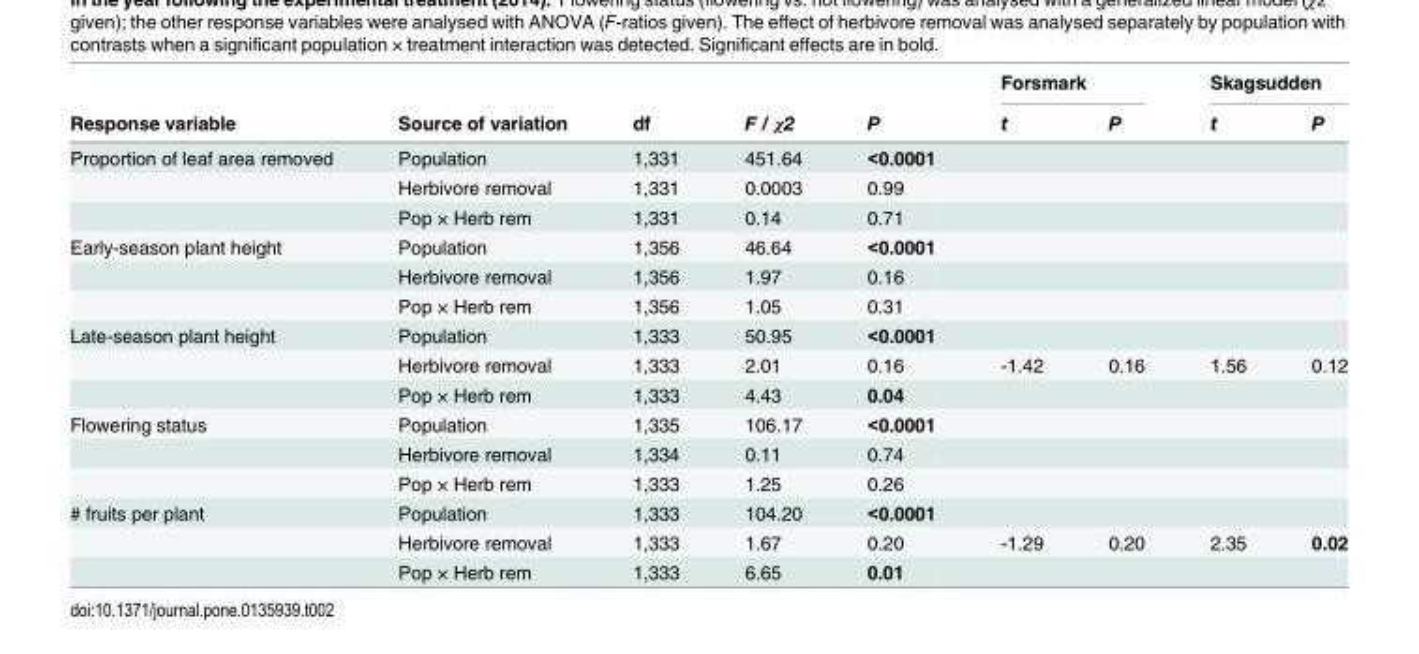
<table><thead><tr><td rowspan="2">Response variable</td><td rowspan="2">Source of variation</td><td rowspan="2">df</td><td rowspan="2">F / χ2</td><td rowspan="2">P</td><td colspan="2">Forsmark</td><td colspan="2">Skagsudden</td></tr><tr><td>t</td><td>P</td><td>t</td><td>P</td></tr></thead><tbody><tr><td rowspan="3">Proportion of leaf area removed</td><td>Population</td><td>1,331</td><td>451.64</td><td>&lt;0.0001</td><td></td><td></td><td></td><td></td></tr><tr><td>Herbivore removal</td><td>1,331</td><td>0.0003</td><td>0.99</td><td></td><td></td><td></td><td></td></tr><tr><td>Pop × Herb rem</td><td>1,331</td><td>0.14</td><td>0.71</td><td></td><td></td><td></td><td></td></tr><tr><td rowspan="3">Early-season plant height</td><td>Population</td><td>1,356</td><td>46.64</td><td>&lt;0.0001</td><td></td><td></td><td></td><td></td></tr><tr><td>Herbivore removal</td><td>1,356</td><td>1.97</td><td>0.16</td><td></td><td></td><td></td><td></td></tr><tr><td>Pop × Herb rem</td><td>1,356</td><td>1.05</td><td>0.31</td><td></td><td></td><td></td><td></td></tr><tr><td rowspan="3">Late-season plant height</td><td>Population</td><td>1,333</td><td>50.95</td><td>&lt;0.0001</td><td></td><td></td><td></td><td></td></tr><tr><td>Herbivore removal</td><td>1,333</td><td>2.01</td><td>0.16</td><td>-1.42</td><td>0.16</td><td>1.56</td><td>0.12</td></tr><tr><td>Pop × Herb rem</td><td>1,333</td><td>4.43</td><td>0.04</td><td></td><td></td><td></td><td></td></tr><tr><td rowspan="3">Flowering status</td><td>Population</td><td>1,335</td><td>106.17</td><td>&lt;0.0001</td><td></td><td></td><td></td><td></td></tr><tr><td>Herbivore removal</td><td>1,334</td><td>0.11</td><td>0.74</td><td></td><td></td><td></td><td></td></tr><tr><td>Pop × Herb rem</td><td>1,333</td><td>1.25</td><td>0.26</td><td></td><td></td><td></td><td></td></tr><tr><td rowspan="3"># fruits per plant</td><td>Population</td><td>1,333</td><td>104.20</td><td>&lt;0.0001</td><td></td><td></td><td></td><td></td></tr><tr><td>Herbivore removal</td><td>1,333</td><td>1.67</td><td>0.20</td><td>-1.29</td><td>0.20</td><td>2.35</td><td>0.02</td></tr><tr><td>Pop × Herb rem</td><td>1,333</td><td>6.65</td><td>0.01</td><td></td><td></td><td></td><td></td></tr></tbody></table>